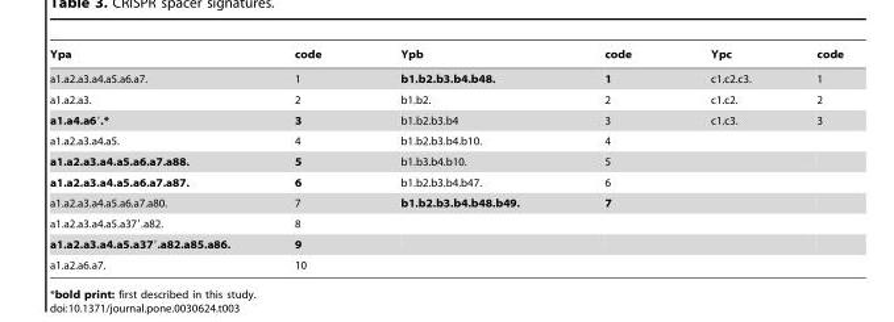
<table><thead><tr><td>Ypa</td><td>code</td><td>Ypb</td><td>code</td><td>Ypc</td><td>code</td></tr></thead><tbody><tr><td>a1.a2.a3.a4.a5.a6.a7.</td><td>1</td><td>b1.b2.b3.b4.b48.</td><td>1</td><td>c1.c2.c3.</td><td>1</td></tr><tr><td>a1.a2.a3.</td><td>2</td><td>b1.b2.</td><td>2</td><td>c1.c2.</td><td>2</td></tr><tr><td>a1.a4.a6′.*</td><td>3</td><td>b1.b2.b3.b4</td><td>3</td><td>c1.c3.</td><td>3</td></tr><tr><td>a1.a2.a3.a4.a5.</td><td>4</td><td>b1.b2.b3.b4.b10.</td><td>4</td><td></td><td></td></tr><tr><td>a1.a2.a3.a4.a5.a6.a7.a88.</td><td>5</td><td>b1.b3.b4.b10.</td><td>5</td><td></td><td></td></tr><tr><td>a1.a2.a3.a4.a5.a6.a7.a87.</td><td>6</td><td>b1.b2.b3.b4.b47.</td><td>6</td><td></td><td></td></tr><tr><td>a1.a2.a3.a4.a5.a6.a7.a80.</td><td>7</td><td>b1.b2.b3.b4.b48.b49.</td><td>7</td><td></td><td></td></tr><tr><td>a1.a2.a3.a4.a5.a37′.a82.</td><td>8</td><td></td><td></td><td></td><td></td></tr><tr><td>a1.a2.a3.a4.a5.a37′.a82.a85.a86.</td><td>9</td><td></td><td></td><td></td><td></td></tr><tr><td>a1.a2.a6.a7.</td><td>10</td><td></td><td></td><td></td><td></td></tr></tbody></table>